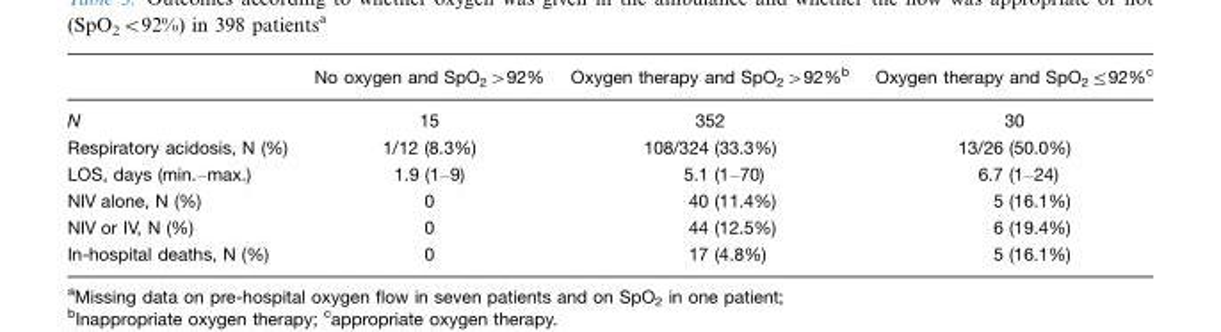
<table><thead><tr><td></td><td>No oxygen and SpO<sub>2</sub>&gt;92%</td><td>Oxygen therapy and SpO<sub>2</sub>&gt;92%<sup>b</sup></td><td>Oxygen therapy and SpO<sub>2</sub>≤92%<sup>c</sup></td></tr></thead><tbody><tr><td>N</td><td>15</td><td>352</td><td>30</td></tr><tr><td>Respiratory acidosis, N (%)</td><td>1/12 (8.3%)</td><td>108/324 (33.3%)</td><td>13/26 (50.0%)</td></tr><tr><td>LOS, days (min.–max.)</td><td>1.9 (1–9)</td><td>5.1 (1–70)</td><td>6.7 (1–24)</td></tr><tr><td>NIV alone, N (%)</td><td>0</td><td>40 (11.4%)</td><td>5 (16.1%)</td></tr><tr><td>NIV or IV, N (%)</td><td>0</td><td>44 (12.5%)</td><td>6 (19.4%)</td></tr><tr><td>In-hospital deaths, N (%)</td><td>0</td><td>17 (4.8%)</td><td>5 (16.1%)</td></tr></tbody></table>